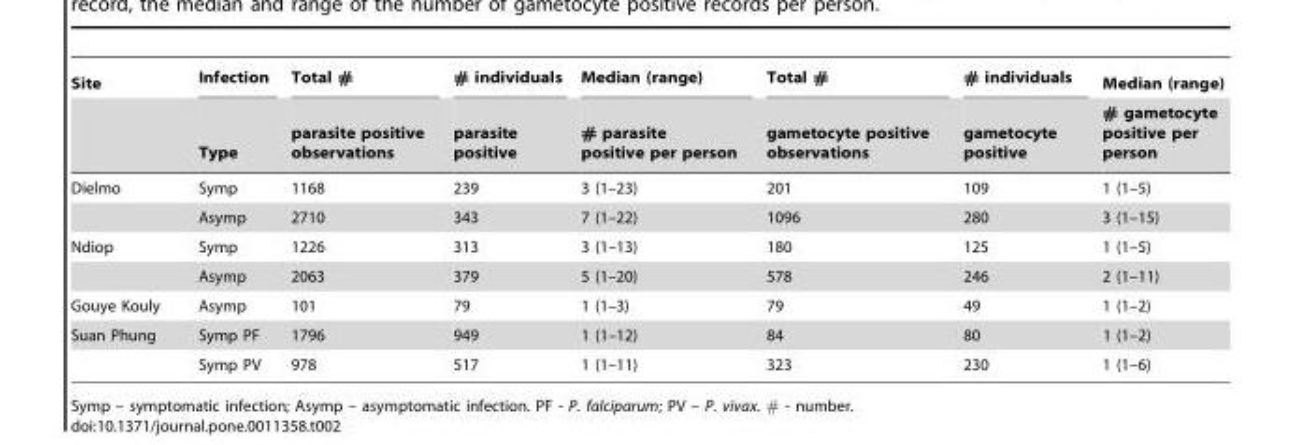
<table><thead><tr><td rowspan="2">Site</td><td rowspan="2">Infection Type</td><td rowspan="2">Total # parasite positive observations</td><td rowspan="2"># individuals parasite positive</td><td rowspan="2">Median (range) # parasite positive per person</td><td rowspan="2">Total # gametocyte positive observations</td><td rowspan="2"># individuals gametocyte positive</td><td rowspan="2">Median (range) # gametocyte positive per person</td></tr><tr></tr></thead><tbody><tr><td rowspan="2">Dielmo</td><td>Symp</td><td>1168</td><td>239</td><td>3 (1–23)</td><td>201</td><td>109</td><td>1 (1–5)</td></tr><tr><td>Asymp</td><td>2710</td><td>343</td><td>7 (1–22)</td><td>1096</td><td>280</td><td>3 (1–15)</td></tr><tr><td rowspan="2">Ndiop</td><td>Symp</td><td>1226</td><td>313</td><td>3 (1–13)</td><td>180</td><td>125</td><td>1 (1–5)</td></tr><tr><td>Asymp</td><td>2063</td><td>379</td><td>5 (1–20)</td><td>578</td><td>246</td><td>2 (1–11)</td></tr><tr><td>Gouye Kouly</td><td>Asymp</td><td>101</td><td>79</td><td>1 (1–3)</td><td>79</td><td>49</td><td>1 (1–2)</td></tr><tr><td rowspan="2">Suan Phung</td><td>Symp PF</td><td>1796</td><td>949</td><td>1 (1–12)</td><td>84</td><td>80</td><td>1 (1–2)</td></tr><tr><td>Symp PV</td><td>978</td><td>517</td><td>1 (1–11)</td><td>323</td><td>230</td><td>1 (1–6)</td></tr></tbody></table>